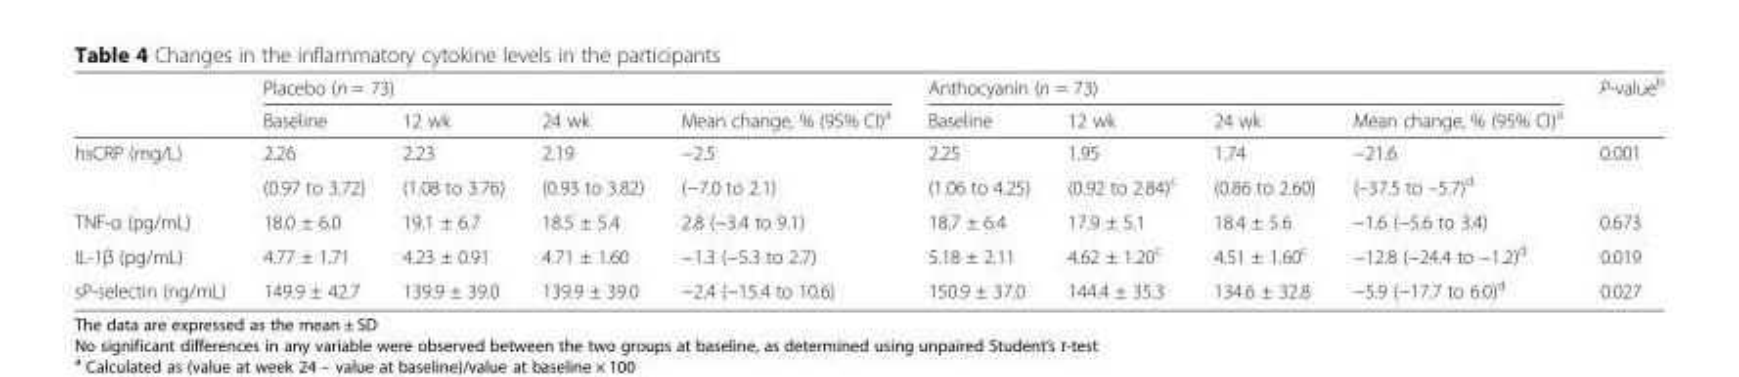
<table><thead><tr><td rowspan="2"></td><td colspan="4">Placebo (n = 73)</td><td colspan="4">Anthocyanin (n = 73)</td><td rowspan="2">P-value<sup>b</sup></td></tr><tr><td>Baseline</td><td>12 wk</td><td>24 wk</td><td>Mean change, % (95% CI)<sup>a</sup></td><td>Baseline</td><td>12 wk</td><td>24 wk</td><td>Mean change, % (95% CI)<sup>a</sup></td></tr></thead><tbody><tr><td rowspan="2">hsCRP (mg/L)</td><td>2.26</td><td>2.23</td><td>2.19</td><td>−2.5</td><td>2.25</td><td>1.95</td><td>1.74</td><td>−21.6</td><td rowspan="2">0.001</td></tr><tr><td>(0.97 to 3.72)</td><td>(1.08 to 3.76)</td><td>(0.93 to 3.82)</td><td>(−7.0 to 2.1)</td><td>(1.06 to 4.25)</td><td>(0.92 to 2.84)<sup>c</sup></td><td>(0.86 to 2.60)</td><td>(–37.5 to –5.7)<sup>d</sup></td></tr><tr><td>TNF-α (pg/mL)</td><td>18.0 ± 6.0</td><td>19.1 ± 6.7</td><td>18.5 ± 5.4</td><td>2.8 (−3.4 to 9.1)</td><td>18.7 ± 6.4</td><td>17.9 ± 5.1</td><td>18.4 ± 5.6</td><td>−1.6 (−5.6 to 3.4)</td><td>0.673</td></tr><tr><td>IL-1β (pg/mL)</td><td>4.77 ± 1.71</td><td>4.23 ± 0.91</td><td>4.71 ± 1.60</td><td>−1.3 (−5.3 to 2.7)</td><td>5.18 ± 2.11</td><td>4.62 ± 1.20<sup>c</sup></td><td>4.51 ± 1.60<sup>c</sup></td><td>−12.8 (−24.4 to −1.2)<sup>d</sup></td><td>0.019</td></tr><tr><td>sP-selectin (ng/mL)</td><td>149.9 ± 42.7</td><td>139.9 ± 39.0</td><td>139.9 ± 39.0</td><td>−2.4 (−15.4 to 10.6)</td><td>150.9 ± 37.0</td><td>144.4 ± 35.3</td><td>134.6 ± 32.8</td><td>−5.9 (−17.7 to 6.0)<sup>d</sup></td><td>0.027</td></tr></tbody></table>